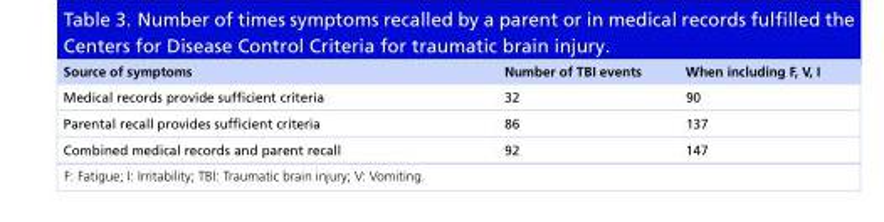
<table><thead><tr><td>Source of symptoms</td><td>Number of TBI events</td><td>When including F, V, I</td></tr></thead><tbody><tr><td>Medical records provide sufficient criteria</td><td>32</td><td>90</td></tr><tr><td>Parental recall provides sufficient criteria</td><td>86</td><td>137</td></tr><tr><td>Combined medical records and parent recall</td><td>92</td><td>147</td></tr></tbody></table>